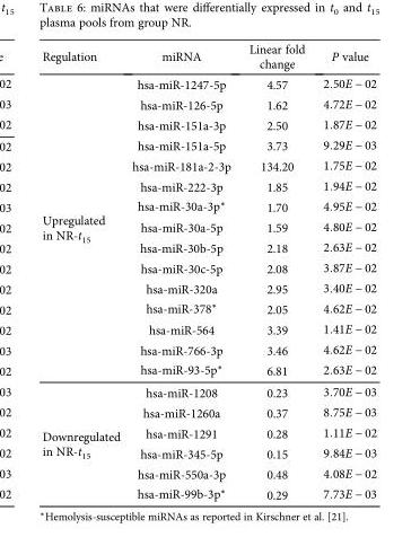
<table><thead><tr><td>Regulation</td><td>miRNA</td><td>Linear fold change</td><td>P value</td></tr></thead><tbody><tr><td rowspan="15">Upregulated in NR-t<sub>15</sub></td><td>hsa-miR-1247-5p</td><td>4.57</td><td>2 50E − 02</td></tr><tr><td>hsa-miR-126-5p</td><td>1.62</td><td>4 72E − 02</td></tr><tr><td>hsa-miR-151a-3p</td><td>2.50</td><td>1 87E − 02</td></tr><tr><td>hsa-miR-151a-5p</td><td>3.73</td><td>9 29E − 03</td></tr><tr><td>hsa-miR-181a-2-3p</td><td>134.20</td><td>1 75E − 02</td></tr><tr><td>hsa-miR-222-3p</td><td>1.85</td><td>1 94E − 02</td></tr><tr><td>hsa-miR-30a-3p∗</td><td>1.70</td><td>4 95E − 02</td></tr><tr><td>hsa-miR-30a-5p</td><td>1.59</td><td>4 80E − 02</td></tr><tr><td>hsa-miR-30b-5p</td><td>2.18</td><td>2 63E − 02</td></tr><tr><td>hsa-miR-30c-5p</td><td>2.08</td><td>3 87E − 02</td></tr><tr><td>hsa-miR-320a</td><td>2.95</td><td>3 40E − 02</td></tr><tr><td>hsa-miR-378∗</td><td>2.05</td><td>4 62E − 02</td></tr><tr><td>hsa-miR-564</td><td>3.39</td><td>1 41E − 02</td></tr><tr><td>hsa-miR-766-3p</td><td>3.46</td><td>4 62E − 02</td></tr><tr><td>hsa-miR-93-5p∗</td><td>6.81</td><td>2 63E − 02</td></tr><tr><td rowspan="6">Downregulated in NR-t15</td><td>hsa-miR-1208</td><td>0.23</td><td>3 70E − 03</td></tr><tr><td>hsa-miR-1260a</td><td>0.37</td><td>8 75E − 03</td></tr><tr><td>hsa-miR-1291</td><td>0.28</td><td>1 11E − 02</td></tr><tr><td>hsa-miR-345-5p</td><td>0.15</td><td>9 84E − 03</td></tr><tr><td>hsa-miR-550a-3p</td><td>0.48</td><td>4 08E − 02</td></tr><tr><td>hsa-miR-99b-3p∗</td><td>0.29</td><td>7 73E − 03</td></tr></tbody></table>